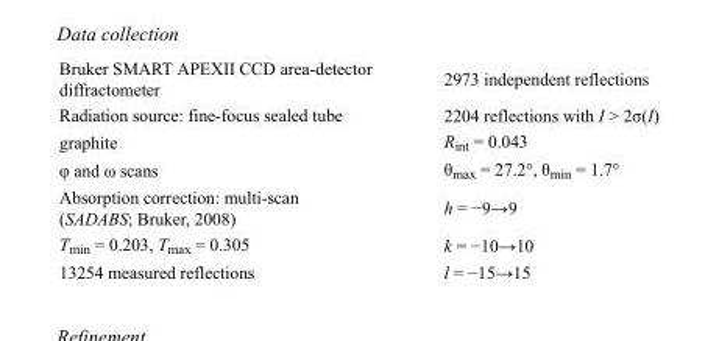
<table><tbody><tr><td>Bruker SMART APEXII CCD area-detector diffractometer</td><td>2973 independent reflections</td></tr><tr><td>Radiation source: fine-focus sealed tube</td><td>2204 reflections with I &gt; 2σ(I)</td></tr><tr><td>graphite</td><td>R<sub>int</sub> = 0.043</td></tr><tr><td>φ and ω scans</td><td>θ<sub>max</sub> = 27.2°, θ<sub>min</sub> = 1.7°</td></tr><tr><td>Absorption correction: multi-scan (SADABS; Bruker, 2008)</td><td>h = −9→9</td></tr><tr><td>T<sub>min</sub> = 0.203, T<sub>max</sub> = 0.305</td><td>k = −10→10</td></tr><tr><td>13254 measured reflections</td><td>l = −15→15</td></tr></tbody></table>